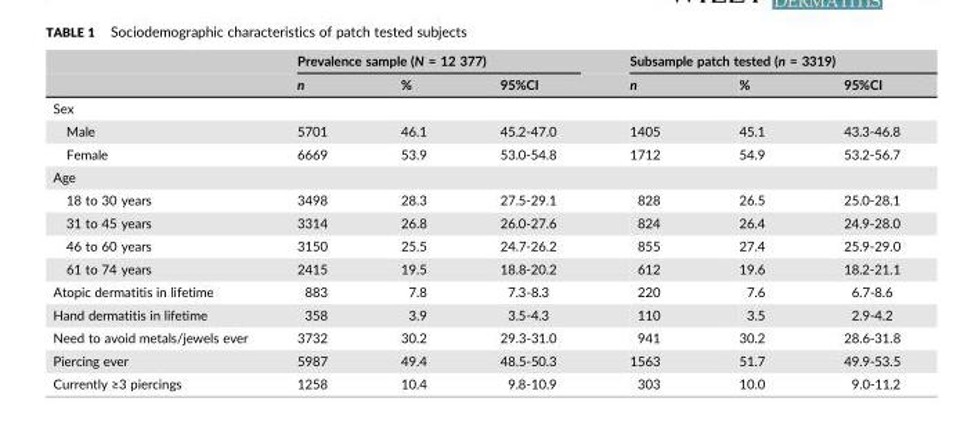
<table><thead><tr><td rowspan="2"></td><td colspan="3">Prevalence sample (N = 12 377)</td><td colspan="3">Subsample patch tested (n = 3319)</td></tr><tr><td>n</td><td>%</td><td>95%CI</td><td>n</td><td>%</td><td>95%CI</td></tr></thead><tbody><tr><td colspan="7">Sex</td></tr><tr><td>Male</td><td>5701</td><td>46.1</td><td>45.2-47.0</td><td>1405</td><td>45.1</td><td>43.3-46.8</td></tr><tr><td>Female</td><td>6669</td><td>53.9</td><td>53.0-54.8</td><td>1712</td><td>54.9</td><td>53.2-56.7</td></tr><tr><td colspan="7">Age</td></tr><tr><td>18 to 30 years</td><td>3498</td><td>28.3</td><td>27.5-29.1</td><td>828</td><td>26.5</td><td>25.0-28.1</td></tr><tr><td>31 to 45 years</td><td>3314</td><td>26.8</td><td>26.0-27.6</td><td>824</td><td>26.4</td><td>24.9-28.0</td></tr><tr><td>46 to 60 years</td><td>3150</td><td>25.5</td><td>24.7-26.2</td><td>855</td><td>27.4</td><td>25.9-29.0</td></tr><tr><td>61 to 74 years</td><td>2415</td><td>19.5</td><td>18.8-20.2</td><td>612</td><td>19.6</td><td>18.2-21.1</td></tr><tr><td>Atopic dermatitis in lifetime</td><td>883</td><td>7.8</td><td>7.3-8.3</td><td>220</td><td>7.6</td><td>6.7-8.6</td></tr><tr><td>Hand dermatitis in lifetime</td><td>358</td><td>3.9</td><td>3.5-4.3</td><td>110</td><td>3.5</td><td>2.9-4.2</td></tr><tr><td>Need to avoid metals/jewels ever</td><td>3732</td><td>30.2</td><td>29.3-31.0</td><td>941</td><td>30.2</td><td>28.6-31.8</td></tr><tr><td>Piercing ever</td><td>5987</td><td>49.4</td><td>48.5-50.3</td><td>1563</td><td>51.7</td><td>49.9-53.5</td></tr><tr><td>Currently ≥3 piercings</td><td>1258</td><td>10.4</td><td>9.8-10.9</td><td>303</td><td>10.0</td><td>9.0-11.2</td></tr></tbody></table>